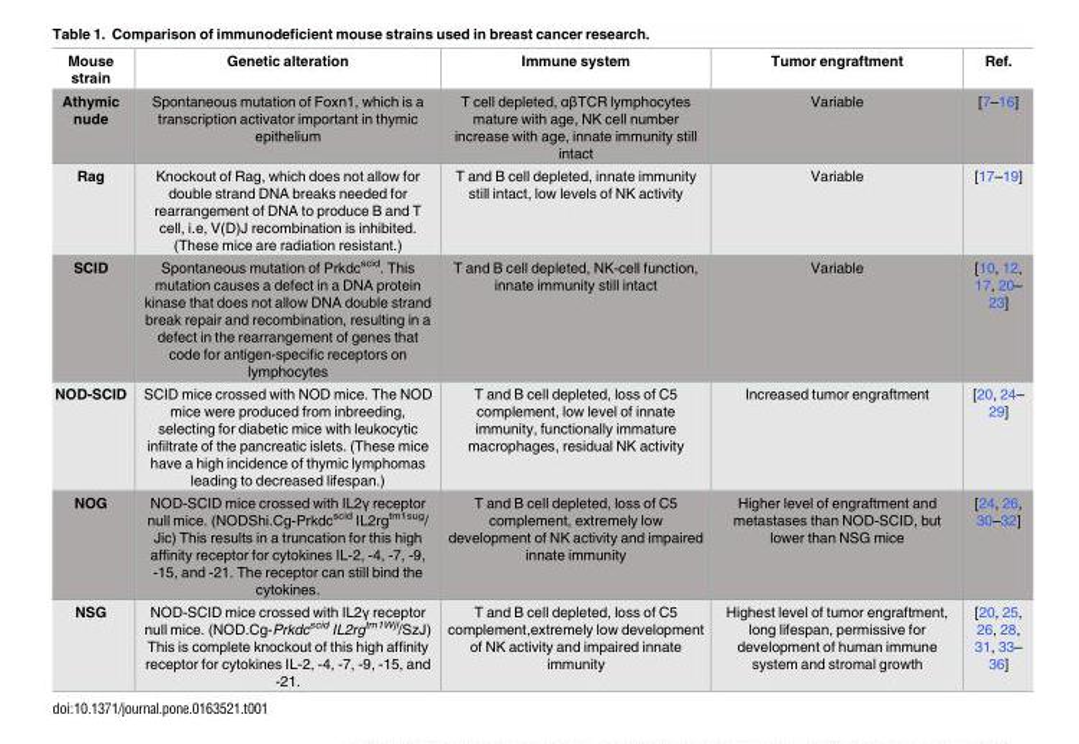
<table><thead><tr><td>Mouse strain</td><td>Genetic alteration</td><td>Immune system</td><td>Tumor engraftment</td><td>Ref.</td></tr></thead><tbody><tr><td>Athymic nude</td><td>Spontaneous mutation of Foxn1, which is a transcription activator important in thymic epithelium</td><td>T cell depleted, αβTCR lymphocytes mature with age, NK cell number increase with age, innate immunity still intact</td><td>Variable</td><td>[7–16]</td></tr><tr><td>Rag</td><td>Knockout of Rag, which does not allow for double strand DNA breaks needed for rearrangement of DNA to produce B and T cell, i.e, V(D)J recombination is inhibited. (These mice are radiation resistant.)</td><td>T and B cell depleted, innate immunity still intact, low levels of NK activity</td><td>Variable</td><td>[17–19]</td></tr><tr><td>SCID</td><td>Spontaneous mutation of Prkdc<sup>scid</sup>. This mutation causes a defect in a DNA protein kinase that does not allow DNA double strand break repair and recombination, resulting in a defect in the rearrangement of genes that code for antigen-specific receptors on lymphocytes</td><td>T and B cell depleted, NK-cell function, innate immunity still intact</td><td>Variable</td><td>[10, 12, 17, 20– 23]</td></tr><tr><td>NOD-SCID</td><td>SCID mice crossed with NOD mice. The NOD mice were produced from inbreeding, selecting for diabetic mice with leukocytic infiltrate of the pancreatic islets. (These mice have a high incidence of thymic lymphomas leading to decreased lifespan.)</td><td>T and B cell depleted, loss of C5 complement, low level of innate immunity, functionally immature macrophages, residual NK activity</td><td>Increased tumor engraftment</td><td>[20, 24– 29]</td></tr><tr><td>NOG</td><td>NOD-SCID mice crossed with IL2γ receptor null mice. (NODShi.Cg-Prkdc<sup>scid</sup> IL2rg<sup>tm1sug</sup>/ Jic) This results in a truncation for this high affinity receptor for cytokines IL-2, -4, -7, -9, -15, and -21. The receptor can still bind the cytokines.</td><td>T and B cell depleted, loss of C5 complement, extremely low development of NK activity and impaired innate immunity</td><td>Higher level of engraftment and metastases than NOD-SCID, but lower than NSG mice</td><td>[24, 26, 30–32]</td></tr><tr><td>NSG</td><td>NOD-SCID mice crossed with IL2γ receptor null mice. (NOD.Cg-Prkdc<sup>scid</sup> IL2rg<sup>tm1Wjl</sup>/SzJ) This is complete knockout of this high affinity receptor for cytokines IL-2, -4, -7, -9, -15, and -21.</td><td>T and B cell depleted, loss of C5 complement,extremely low development of NK activity and impaired innate immunity</td><td>Highest level of tumor engraftment, long lifespan, permissive for development of human immune system and stromal growth</td><td>[20, 25, 26, 28, 31, 33– 36]</td></tr></tbody></table>